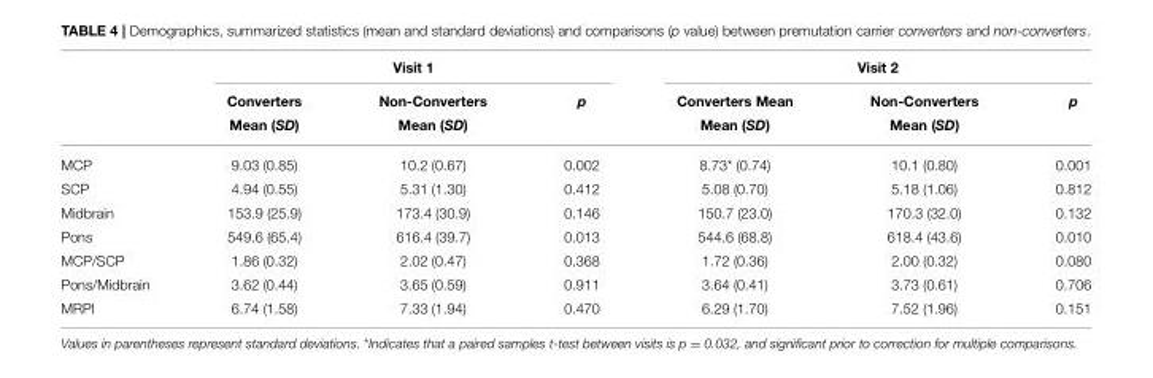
<table><thead><tr><td rowspan="3"></td><td colspan="3">Visit 1</td><td colspan="3">Visit 2</td></tr><tr><td rowspan="2">Converters Mean (SD)</td><td rowspan="2">Non-Converters Mean (SD)</td><td rowspan="2">p</td><td rowspan="2">Converters Mean Mean (SD)</td><td rowspan="2">Non-Converters Mean (SD)</td><td rowspan="2">p</td></tr><tr></tr></thead><tbody><tr><td>MCP</td><td>9.03 (0.85)</td><td>10.2 (0.67)</td><td>0.002</td><td>8.73* (0.74)</td><td>10.1 (0.80)</td><td>0.001</td></tr><tr><td>SCP</td><td>4.94 (0.55)</td><td>5.31 (1.30)</td><td>0.412</td><td>5.08 (0.70)</td><td>5.18 (1.06)</td><td>0.812</td></tr><tr><td>Midbrain</td><td>153.9 (25.9)</td><td>173.4 (30.9)</td><td>0.146</td><td>150.7 (23.0)</td><td>170.3 (32.0)</td><td>0.132</td></tr><tr><td>Pons</td><td>549.6 (65.4)</td><td>616.4 (39.7)</td><td>0.013</td><td>544.6 (68.8)</td><td>618.4 (43.6)</td><td>0.010</td></tr><tr><td>MCP/SCP</td><td>1.86 (0.32)</td><td>2.02 (0.47)</td><td>0.368</td><td>1.72 (0.36)</td><td>2.00 (0.32)</td><td>0.080</td></tr><tr><td>Pons/Midbrain</td><td>3.62 (0.44)</td><td>3.65 (0.59)</td><td>0.911</td><td>3.64 (0.41)</td><td>3.73 (0.61)</td><td>0.706</td></tr><tr><td>MRPI</td><td>6.74 (1.58)</td><td>7.33 (1.94)</td><td>0.470</td><td>6.29 (1.70)</td><td>7.52 (1.96)</td><td>0.151</td></tr></tbody></table>